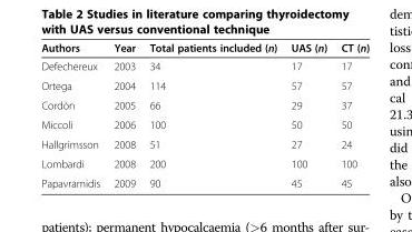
<table><thead><tr><td>Authors</td><td>Year</td><td>Total patients included (n)</td><td>UAS (n)</td><td>CT (n)</td></tr></thead><tbody><tr><td>Defechereux</td><td>2003</td><td>34</td><td>17</td><td>17</td></tr><tr><td>Ortega</td><td>2004</td><td>114</td><td>57</td><td>57</td></tr><tr><td>Cordòn</td><td>2005</td><td>66</td><td>29</td><td>37</td></tr><tr><td>Miccoli</td><td>2006</td><td>100</td><td>50</td><td>50</td></tr><tr><td>Hallgrimsson</td><td>2008</td><td>51</td><td>27</td><td>24</td></tr><tr><td>Lombardi</td><td>2008</td><td>200</td><td>100</td><td>100</td></tr><tr><td>Papavramidis</td><td>2009</td><td>90</td><td>45</td><td>45</td></tr></tbody></table>